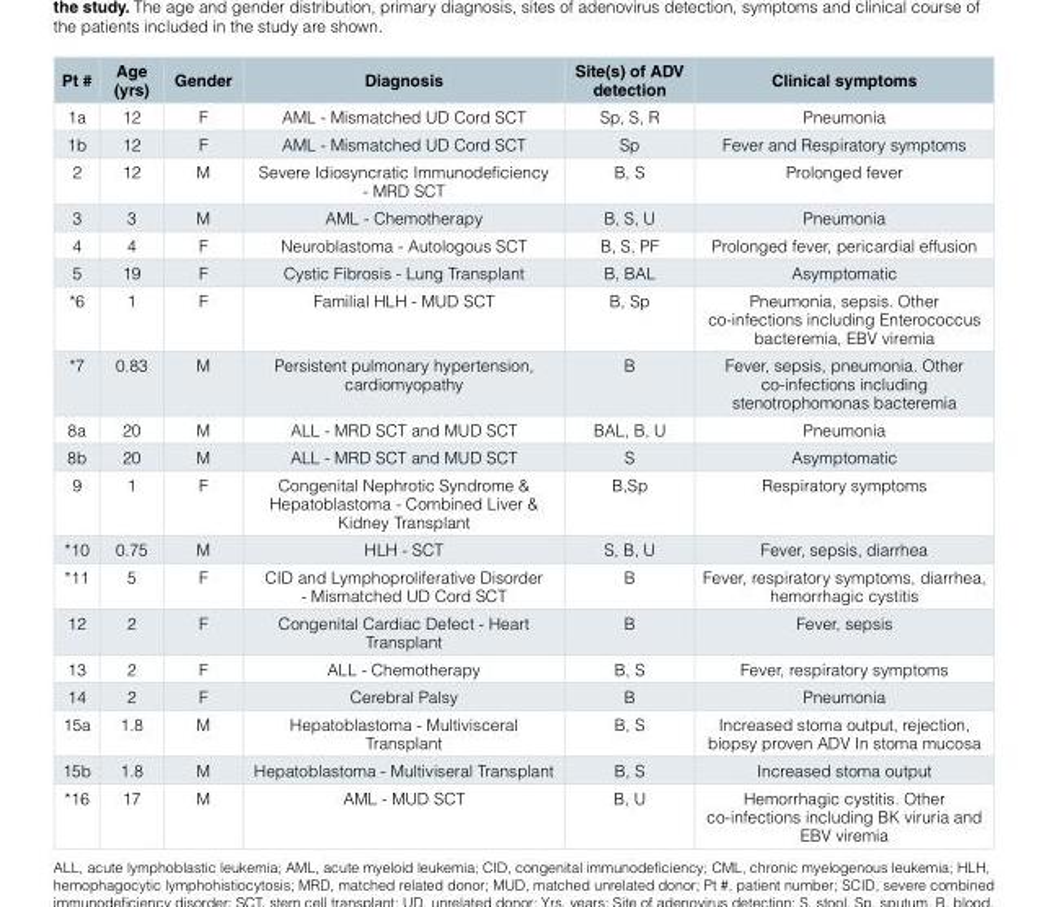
<table><thead><tr><td>Pt #</td><td>Age (yrs)</td><td>Gender</td><td>Diagnosis</td><td>Site(s) of ADV detection</td><td>Clinical symptoms</td></tr></thead><tbody><tr><td>1a</td><td>12</td><td>F</td><td>AML - Mismatched UD Cord SCT</td><td>Sp, S, R</td><td>Pneumonia</td></tr><tr><td>1b</td><td>12</td><td>F</td><td>AML - Mismatched UD Cord SCT</td><td>Sp</td><td>Fever and Respiratory symptoms</td></tr><tr><td>2</td><td>12</td><td>M</td><td>Severe Idiosyncratic Immunodeficiency - MRD SCT</td><td>B, S</td><td>Prolonged fever</td></tr><tr><td>3</td><td>3</td><td>M</td><td>AML - Chemotherapy</td><td>B, S, U</td><td>Pneumonia</td></tr><tr><td>4</td><td>4</td><td>F</td><td>Neuroblastoma - Autologous SCT</td><td>B, S, PF</td><td>Prolonged fever, pericardial effusion</td></tr><tr><td>5</td><td>19</td><td>F</td><td>Cystic Fibrosis - Lung Transplant</td><td>B, BAL</td><td>Asymptomatic</td></tr><tr><td>*6</td><td>1</td><td>F</td><td>Familial HLH - MUD SCT</td><td>B, Sp</td><td>Pneumonia, sepsis. Other co-infections including Enterococcus bacteremia, EBV viremia</td></tr><tr><td>*7</td><td>0.83</td><td>M</td><td>Persistent pulmonary hypertension, cardiomyopathy</td><td>B</td><td>Fever, sepsis, pneumonia. Other co-infections including stenotrophomonas bacteremia</td></tr><tr><td>8a</td><td>20</td><td>M</td><td>ALL - MRD SCT and MUD SCT</td><td>BAL, B, U</td><td>Pneumonia</td></tr><tr><td>8b</td><td>20</td><td>M</td><td>ALL - MRD SCT and MUD SCT</td><td>S</td><td>Asymptomatic</td></tr><tr><td>9</td><td>1</td><td>F</td><td>Congenital Nephrotic Syndrome &amp; Hepatoblastoma - Combined Liver &amp; Kidney Transplant</td><td>B,Sp</td><td>Respiratory symptoms</td></tr><tr><td>*10</td><td>0.75</td><td>M</td><td>HLH - SCT</td><td>S, B, U</td><td>Fever, sepsis, diarrhea</td></tr><tr><td>*11</td><td>5</td><td>F</td><td>CID and Lymphoproliferative Disorder - Mismatched UD Cord SCT</td><td>B</td><td>Fever, respiratory symptoms, diarrhea, hemorrhagic cystitis</td></tr><tr><td>12</td><td>2</td><td>F</td><td>Congenital Cardiac Defect - Heart Transplant</td><td>B</td><td>Fever, sepsis</td></tr><tr><td>13</td><td>2</td><td>F</td><td>ALL - Chemotherapy</td><td>B, S</td><td>Fever, respiratory symptoms</td></tr><tr><td>14</td><td>2</td><td>F</td><td>Cerebral Palsy</td><td>B</td><td>Pneumonia</td></tr><tr><td>15a</td><td>1.8</td><td>M</td><td>Hepatoblastoma - Multivisceral Transplant</td><td>B, S</td><td>Increased stoma output, rejection, biopsy proven ADV In stoma mucosa</td></tr><tr><td>15b</td><td>1.8</td><td>M</td><td>Hepatoblastoma - Multiviseral Transplant</td><td>B, S</td><td>Increased stoma output</td></tr><tr><td>*16</td><td>17</td><td>M</td><td>AML - MUD SCT</td><td>B, U</td><td>Hemorrhagic cystitis. Other co-infections including BK viruria and EBV viremia</td></tr></tbody></table>